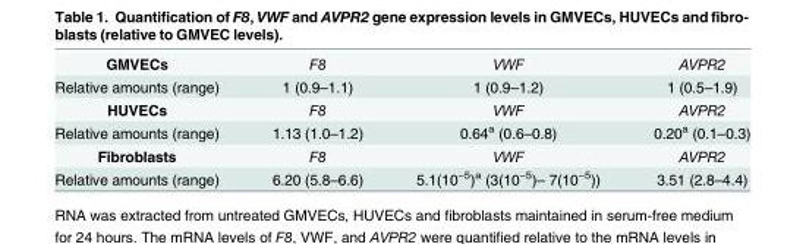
<table><tbody><tr><td>GMVECs</td><td>F8</td><td>VWF</td><td>AVPR2</td></tr><tr><td>Relative amounts (range)</td><td>1 (0.9–1.1)</td><td>1 (0.9–1.2)</td><td>1 (0.5–1.9)</td></tr><tr><td>HUVECs</td><td>F8</td><td>VWF</td><td>AVPR2</td></tr><tr><td>Relative amounts (range)</td><td>1.13 (1.0–1.2)</td><td>0.64<sup>a</sup> (0.6–0.8)</td><td>0.20<sup>a</sup> (0.1–0.3)</td></tr><tr><td>Fibroblasts</td><td>F8</td><td>VWF</td><td>AVPR2</td></tr><tr><td>Relative amounts (range)</td><td>6.20 (5.8–6.6)</td><td>5.1(10<sup>−5</sup>)<sup>a</sup> (3(10<sup>−5</sup>)– 7(10<sup>−5</sup>))</td><td>3.51 (2.8–4.4)</td></tr></tbody></table>